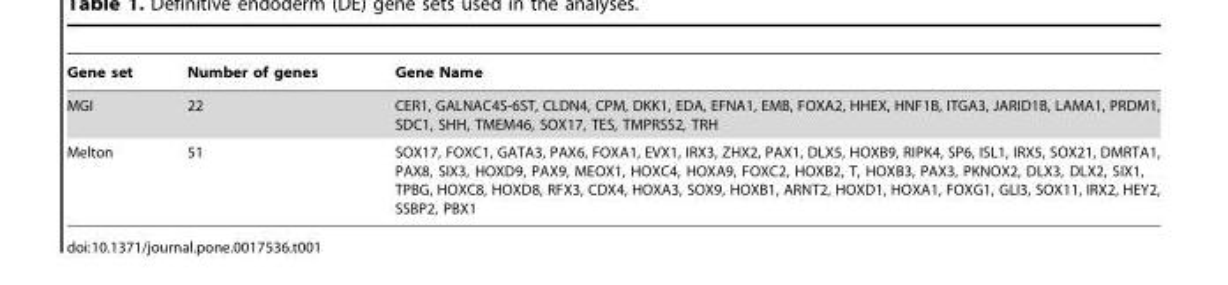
<table><thead><tr><td>Gene set</td><td>Number of genes</td><td>Gene Name</td></tr></thead><tbody><tr><td>MGI</td><td>22</td><td>CER1, GALNAC4S-6ST, CLDN4, CPM, DKK1, EDA, EFNA1, EMB, FOXA2, HHEX, HNF1B, ITGA3, JARID1B, LAMA1, PRDM1, SDC1, SHH, TMEM46, SOX17, TES, TMPRSS2, TRH</td></tr><tr><td>Melton</td><td>51</td><td>SOX17, FOXC1, GATA3, PAX6, FOXA1, EVX1, IRX3, ZHX2, PAX1, DLX5, HOXB9, RIPK4, SP6, ISL1, IRX5, SOX21, DMRTA1, PAX8, SIX3, HOXD9, PAX9, MEOX1, HOXC4, HOXA9, FOXC2, HOXB2, T, HOXB3, PAX3, PKNOX2, DLX3, DLX2, SIX1, TPBG, HOXC8, HOXD8, RFX3, CDX4, HOXA3, SOX9, HOXB1, ARNT2, HOXD1, HOXA1, FOXG1, GLI3, SOX11, IRX2, HEY2, SSBP2, PBX1</td></tr></tbody></table>